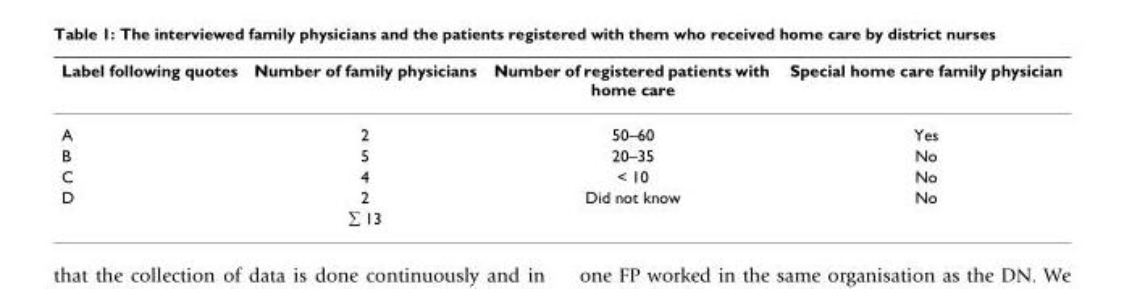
<table><thead><tr><td>Label following quotes</td><td>Number of family physicians</td><td>Number of registered patients with home care</td><td>Special home care family physician</td></tr></thead><tbody><tr><td>A</td><td>2</td><td>50–60</td><td>Yes</td></tr><tr><td>B</td><td>5</td><td>20–35</td><td>No</td></tr><tr><td>C</td><td>4</td><td>&lt; 10</td><td>No</td></tr><tr><td rowspan="2">D</td><td>2</td><td>Did not know</td><td>No</td></tr><tr><td>∑ 13</td><td></td><td></td></tr></tbody></table>